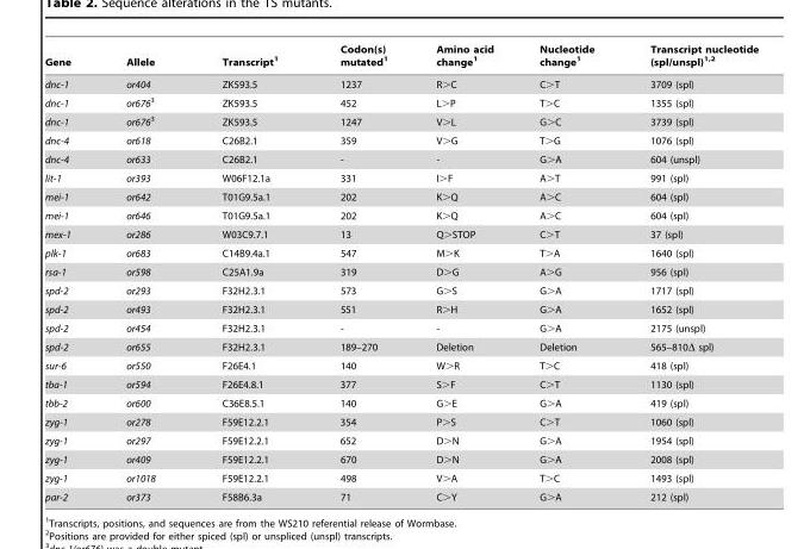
<table><thead><tr><td>Gene</td><td>Allele</td><td>Transcript<sup>1</sup></td><td>Codon(s) mutated<sup>1</sup></td><td>Amino acid change<sup>1</sup></td><td>Nucleotide change<sup>1</sup></td><td>Transcript nucleotide (spl/unspl)<sup>1,</sup>2</td></tr></thead><tbody><tr><td>dnc-1</td><td>or404</td><td>ZK593.5</td><td>1237</td><td>R&gt;C</td><td>C&gt;T</td><td>3709 (spl)</td></tr><tr><td>dnc-1</td><td>or6763</td><td>ZK593.5</td><td>452</td><td>L&gt;P</td><td>T&gt;C</td><td>1355 (spl)</td></tr><tr><td>dnc-1</td><td>or6763</td><td>ZK593.5</td><td>1247</td><td>V&gt;L</td><td>G&gt;C</td><td>3739 (spl)</td></tr><tr><td>dnc-4</td><td>or618</td><td>C26B2.1</td><td>359</td><td>V&gt;G</td><td>T&gt;G</td><td>1076 (spl)</td></tr><tr><td>dnc-4</td><td>or633</td><td>C26B2.1</td><td>-</td><td>-</td><td>G&gt;A</td><td>604 (unspl)</td></tr><tr><td>lit-1</td><td>or393</td><td>W06F12.1a</td><td>331</td><td>I&gt;F</td><td>A&gt;T</td><td>991 (spl)</td></tr><tr><td>mei-1</td><td>or642</td><td>T01G9.5a.1</td><td>202</td><td>K&gt;Q</td><td>A&gt;C</td><td>604 (spl)</td></tr><tr><td>mei-1</td><td>or646</td><td>T01G9.5a.1</td><td>202</td><td>K&gt;Q</td><td>A&gt;C</td><td>604 (spl)</td></tr><tr><td>mex-1</td><td>or286</td><td>W03C9.7.1</td><td>13</td><td>Q&gt;STOP</td><td>C&gt;T</td><td>37 (spl)</td></tr><tr><td>plk-1</td><td>or683</td><td>C14B9.4a.1</td><td>547</td><td>M&gt;K</td><td>T&gt;A</td><td>1640 (spl)</td></tr><tr><td>rsa-1</td><td>or598</td><td>C25A1.9a</td><td>319</td><td>D&gt;G</td><td>A&gt;G</td><td>956 (spl)</td></tr><tr><td>spd-2</td><td>or293</td><td>F32H2.3.1</td><td>573</td><td>G&gt;S</td><td>G&gt;A</td><td>1717 (spl)</td></tr><tr><td>spd-2</td><td>or493</td><td>F32H2.3.1</td><td>551</td><td>R&gt;H</td><td>G&gt;A</td><td>1652 (spl)</td></tr><tr><td>spd-2</td><td>or454</td><td>F32H2.3.1</td><td>-</td><td>-</td><td>G&gt;A</td><td>2175 (unspl)</td></tr><tr><td>spd-2</td><td>or655</td><td>F32H2.3.1</td><td>189–270</td><td>Deletion</td><td>Deletion</td><td>565–810Δ spl)</td></tr><tr><td>sur-6</td><td>or550</td><td>F26E4.1</td><td>140</td><td>W&gt;R</td><td>T&gt;C</td><td>418 (spl)</td></tr><tr><td>tba-1</td><td>or594</td><td>F26E4.8.1</td><td>377</td><td>S&gt;F</td><td>C&gt;T</td><td>1130 (spl)</td></tr><tr><td>tbb-2</td><td>or600</td><td>C36E8.5.1</td><td>140</td><td>G&gt;E</td><td>G&gt;A</td><td>419 (spl)</td></tr><tr><td>zyg-1</td><td>or278</td><td>F59E12.2.1</td><td>354</td><td>P&gt;S</td><td>C&gt;T</td><td>1060 (spl)</td></tr><tr><td>zyg-1</td><td>or297</td><td>F59E12.2.1</td><td>652</td><td>D&gt;N</td><td>G&gt;A</td><td>1954 (spl)</td></tr><tr><td>zyg-1</td><td>or409</td><td>F59E12.2.1</td><td>670</td><td>D&gt;N</td><td>G&gt;A</td><td>2008 (spl)</td></tr><tr><td>zyg-1</td><td>or1018</td><td>F59E12.2.1</td><td>498</td><td>V&gt;A</td><td>T&gt;C</td><td>1493 (spl)</td></tr><tr><td>par-2</td><td>or373</td><td>F58B6.3a</td><td>71</td><td>C&gt;Y</td><td>G&gt;A</td><td>212 (spl)</td></tr></tbody></table>